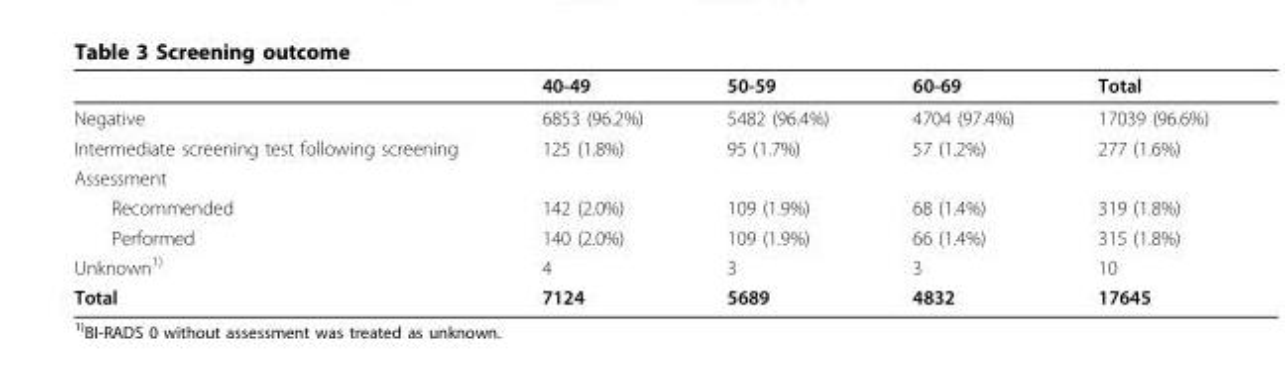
<table><thead><tr><td></td><td>40-49</td><td>50-59</td><td>60-69</td><td>Total</td></tr></thead><tbody><tr><td>Negative</td><td>6853 (96.2%)</td><td>5482 (96.4%)</td><td>4704 (97.4%)</td><td>17039 (96.6%)</td></tr><tr><td>Intermediate screening test following screening</td><td>125 (1.8%)</td><td>95 (1.7%)</td><td>57 (1.2%)</td><td>277 (1.6%)</td></tr><tr><td colspan="5">Assessment</td></tr><tr><td>Recommended</td><td>142 (2.0%)</td><td>109 (1.9%)</td><td>68 (1.4%)</td><td>319 (1.8%)</td></tr><tr><td>Performed</td><td>140 (2.0%)</td><td>109 (1.9%)</td><td>66 (1.4%)</td><td>315 (1.8%)</td></tr><tr><td>Unknown<sup>1)</sup></td><td>4</td><td>3</td><td>3</td><td>10</td></tr><tr><td>Total</td><td>7124</td><td>5689</td><td>4832</td><td>17645</td></tr></tbody></table>